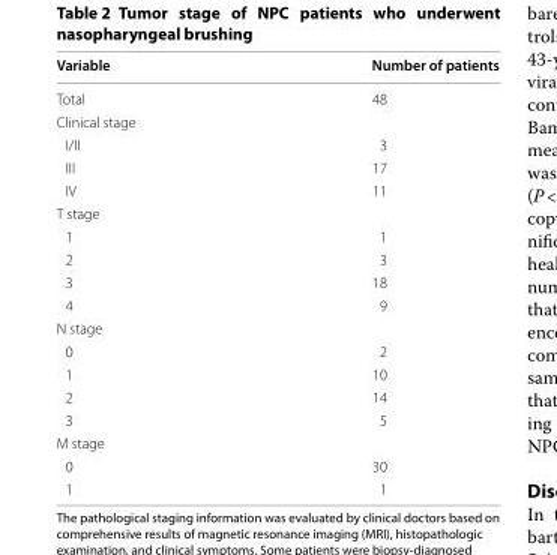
<table><thead><tr><td>Variable</td><td>Number of patients</td></tr></thead><tbody><tr><td>Total</td><td>48</td></tr><tr><td colspan="2">Clinical stage</td></tr><tr><td>I/II</td><td>3</td></tr><tr><td>III</td><td>17</td></tr><tr><td>IV</td><td>11</td></tr><tr><td colspan="2">T stage</td></tr><tr><td>1</td><td>1</td></tr><tr><td>2</td><td>3</td></tr><tr><td>3</td><td>18</td></tr><tr><td>4</td><td>9</td></tr><tr><td colspan="2">N stage</td></tr><tr><td>0</td><td>2</td></tr><tr><td>1</td><td>10</td></tr><tr><td>2</td><td>14</td></tr><tr><td>3</td><td>5</td></tr><tr><td colspan="2">M stage</td></tr><tr><td>0</td><td>30</td></tr><tr><td>1</td><td>1</td></tr></tbody></table>